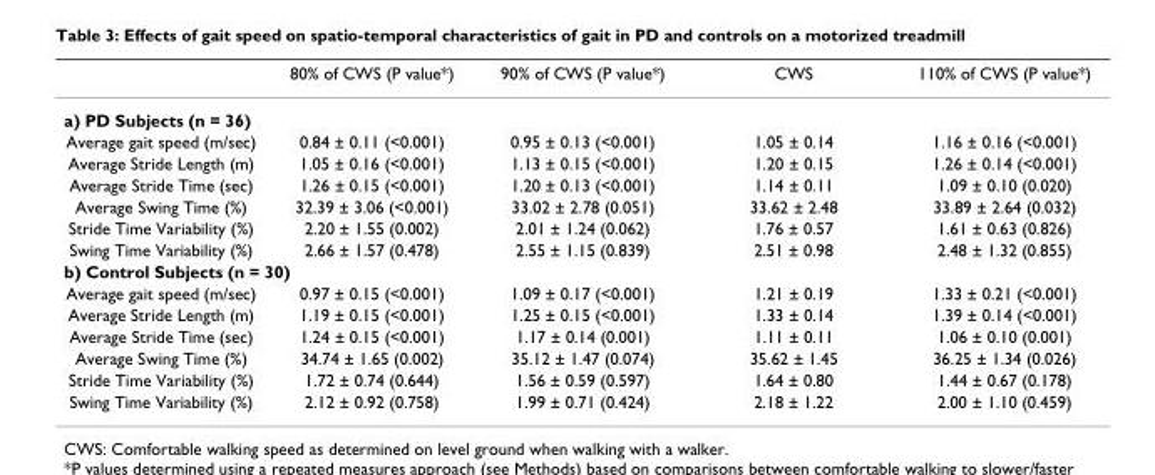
<table><thead><tr><td></td><td>80% of CWS (P value*)</td><td>90% of CWS (P value*)</td><td>CWS</td><td>110% of CWS (P value*)</td></tr></thead><tbody><tr><td colspan="5">a) PD Subjects (n = 36)</td></tr><tr><td>Average gait speed (m/sec)</td><td>0.84 ± 0.11 (&lt;0.001)</td><td>0.95 ± 0.13 (&lt;0.001)</td><td>1.05 ± 0.14</td><td>1.16 ± 0.16 (&lt;0.001)</td></tr><tr><td>Average Stride Length (m)</td><td>1.05 ± 0.16 (&lt;0.001)</td><td>1.13 ± 0.15 (&lt;0.001)</td><td>1.20 ± 0.15</td><td>1.26 ± 0.14 (&lt;0.001)</td></tr><tr><td>Average Stride Time (sec)</td><td>1.26 ± 0.15 (&lt;0.001)</td><td>1.20 ± 0.13 (&lt;0.001)</td><td>1.14 ± 0.11</td><td>1.09 ± 0.10 (0.020)</td></tr><tr><td>Average Swing Time (%)</td><td>32.39 ± 3.06 (&lt;0.001)</td><td>33.02 ± 2.78 (0.051)</td><td>33.62 ± 2.48</td><td>33.89 ± 2.64 (0.032)</td></tr><tr><td>Stride Time Variability (%)</td><td>2.20 ± 1.55 (0.002)</td><td>2.01 ± 1.24 (0.062)</td><td>1.76 ± 0.57</td><td>1.61 ± 0.63 (0.826)</td></tr><tr><td>Swing Time Variability (%)</td><td>2.66 ± 1.57 (0.478)</td><td>2.55 ± 1.15 (0.839)</td><td>2.51 ± 0.98</td><td>2.48 ± 1.32 (0.855)</td></tr><tr><td colspan="5">b) Control Subjects (n = 30)</td></tr><tr><td>Average gait speed (m/sec)</td><td>0.97 ± 0.15 (&lt;0.001)</td><td>1.09 ± 0.17 (&lt;0.001)</td><td>1.21 ± 0.19</td><td>1.33 ± 0.21 (&lt;0.001)</td></tr><tr><td>Average Stride Length (m)</td><td>1.19 ± 0.15 (&lt;0.001)</td><td>1.25 ± 0.15 (&lt;0.001)</td><td>1.33 ± 0.14</td><td>1.39 ± 0.14 (&lt;0.001)</td></tr><tr><td>Average Stride Time (sec)</td><td>1.24 ± 0.15 (&lt;0.001)</td><td>1.17 ± 0.14 (0.001)</td><td>1.11 ± 0.11</td><td>1.06 ± 0.10 (0.001)</td></tr><tr><td>Average Swing Time (%)</td><td>34.74 ± 1.65 (0.002)</td><td>35.12 ± 1.47 (0.074)</td><td>35.62 ± 1.45</td><td>36.25 ± 1.34 (0.026)</td></tr><tr><td>Stride Time Variability (%)</td><td>1.72 ± 0.74 (0.644)</td><td>1.56 ± 0.59 (0.597)</td><td>1.64 ± 0.80</td><td>1.44 ± 0.67 (0.178)</td></tr><tr><td>Swing Time Variability (%)</td><td>2.12 ± 0.92 (0.758)</td><td>1.99 ± 0.71 (0.424)</td><td>2.18 ± 1.22</td><td>2.00 ± 1.10 (0.459)</td></tr></tbody></table>